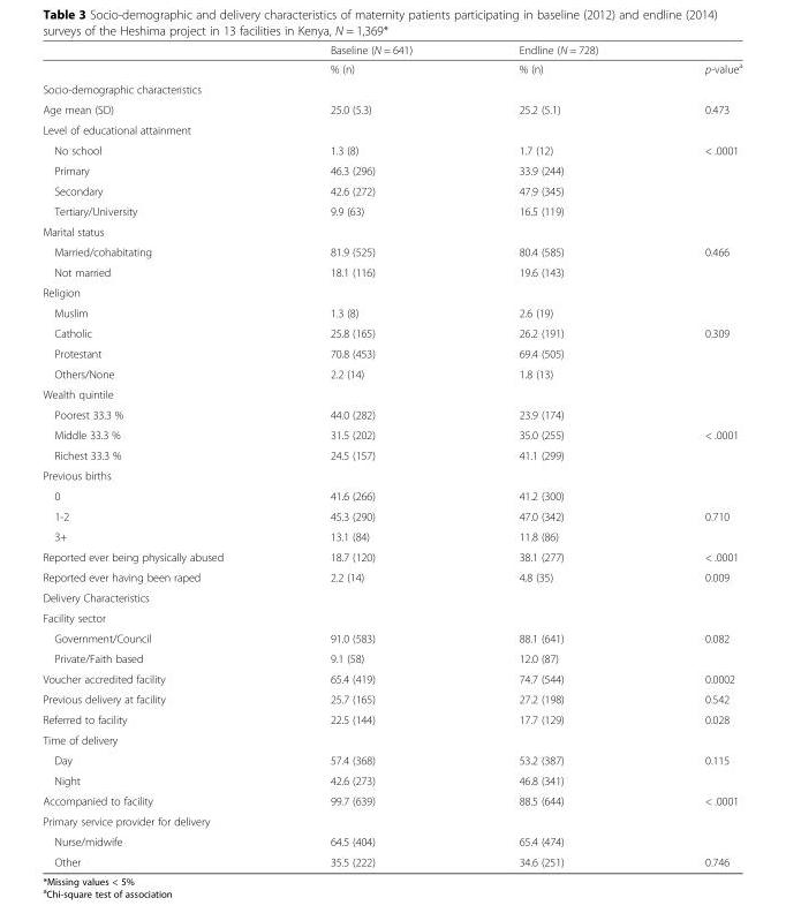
<table><thead><tr><td></td><td>Baseline (N = 641)</td><td>Endline (N = 728)</td><td></td></tr></thead><tbody><tr><td></td><td>% (n)</td><td>% (n)</td><td>p-value<sup>a</sup></td></tr><tr><td colspan="4">Socio-demographic characteristics</td></tr><tr><td>Age mean (SD)</td><td>25.0 (5.3)</td><td>25.2 (5.1)</td><td>0.473</td></tr><tr><td colspan="4">Level of educational attainment</td></tr><tr><td>No school</td><td>1.3 (8)</td><td>1.7 (12)</td><td>&lt; .0001</td></tr><tr><td>Primary</td><td>46.3 (296)</td><td>33.9 (244)</td><td></td></tr><tr><td>Secondary</td><td>42.6 (272)</td><td>47.9 (345)</td><td></td></tr><tr><td>Tertiary/University</td><td>9.9 (63)</td><td>16.5 (119)</td><td></td></tr><tr><td colspan="4">Marital status</td></tr><tr><td>Married/cohabitating</td><td>81.9 (525)</td><td>80.4 (585)</td><td>0.466</td></tr><tr><td>Not married</td><td>18.1 (116)</td><td>19.6 (143)</td><td></td></tr><tr><td colspan="4">Religion</td></tr><tr><td>Muslim</td><td>1.3 (8)</td><td>2.6 (19)</td><td></td></tr><tr><td>Catholic</td><td>25.8 (165)</td><td>26.2 (191)</td><td>0.309</td></tr><tr><td>Protestant</td><td>70.8 (453)</td><td>69.4 (505)</td><td></td></tr><tr><td>Others/None</td><td>2.2 (14)</td><td>1.8 (13)</td><td></td></tr><tr><td colspan="4">Wealth quintile</td></tr><tr><td>Poorest 33.3 %</td><td>44.0 (282)</td><td>23.9 (174)</td><td></td></tr><tr><td>Middle 33.3 %</td><td>31.5 (202)</td><td>35.0 (255)</td><td>&lt; .0001</td></tr><tr><td>Richest 33.3 %</td><td>24.5 (157)</td><td>41.1 (299)</td><td></td></tr><tr><td colspan="4">Previous births</td></tr><tr><td>0</td><td>41.6 (266)</td><td>41.2 (300)</td><td></td></tr><tr><td>1-2</td><td>45.3 (290)</td><td>47.0 (342)</td><td>0.710</td></tr><tr><td>3+</td><td>13.1 (84)</td><td>11.8 (86)</td><td></td></tr><tr><td>Reported ever being physically abused</td><td>18.7 (120)</td><td>38.1 (277)</td><td>&lt; .0001</td></tr><tr><td>Reported ever having been raped</td><td>2.2 (14)</td><td>4.8 (35)</td><td>0.009</td></tr><tr><td colspan="4">Delivery Characteristics</td></tr><tr><td colspan="4">Facility sector</td></tr><tr><td>Government/Council</td><td>91.0 (583)</td><td>88.1 (641)</td><td>0.082</td></tr><tr><td>Private/Faith based</td><td>9.1 (58)</td><td>12.0 (87)</td><td></td></tr><tr><td>Voucher accredited facility</td><td>65.4 (419)</td><td>74.7 (544)</td><td>0.0002</td></tr><tr><td>Previous delivery at facility</td><td>25.7 (165)</td><td>27.2 (198)</td><td>0.542</td></tr><tr><td>Referred to facility</td><td>22.5 (144)</td><td>17.7 (129)</td><td>0.028</td></tr><tr><td colspan="4">Time of delivery</td></tr><tr><td>Day</td><td>57.4 (368)</td><td>53.2 (387)</td><td>0.115</td></tr><tr><td>Night</td><td>42.6 (273)</td><td>46.8 (341)</td><td></td></tr><tr><td>Accompanied to facility</td><td>99.7 (639)</td><td>88.5 (644)</td><td>&lt; .0001</td></tr><tr><td colspan="4">Primary service provider for delivery</td></tr><tr><td>Nurse/midwife</td><td>64.5 (404)</td><td>65.4 (474)</td><td></td></tr><tr><td>Other</td><td>35.5 (222)</td><td>34.6 (251)</td><td>0.746</td></tr></tbody></table>